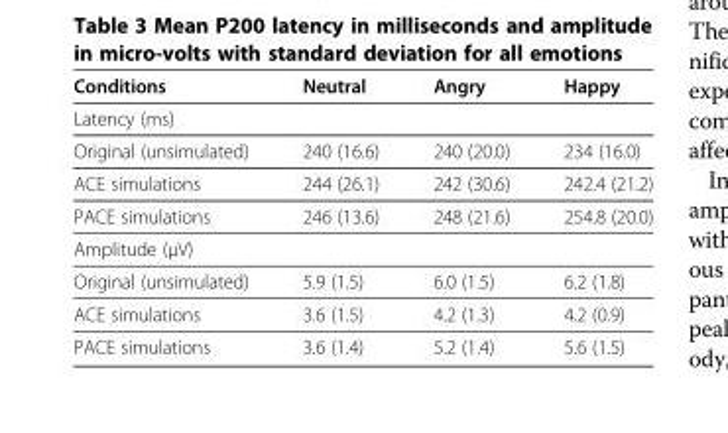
<table><thead><tr><td>Conditions</td><td>Neutral</td><td>Angry</td><td>Happy</td></tr></thead><tbody><tr><td colspan="4">Latency (ms)</td></tr><tr><td>Original (unsimulated)</td><td>240 (16.6)</td><td>240 (20.0)</td><td>234 (16.0)</td></tr><tr><td>ACE simulations</td><td>244 (26.1)</td><td>242 (30.6)</td><td>242.4 (21.2)</td></tr><tr><td>PACE simulations</td><td>246 (13.6)</td><td>248 (21.6)</td><td>254.8 (20.0)</td></tr><tr><td colspan="4">Amplitude (μV)</td></tr><tr><td>Original (unsimulated)</td><td>5.9 (1.5)</td><td>6.0 (1.5)</td><td>6.2 (1.8)</td></tr><tr><td>ACE simulations</td><td>3.6 (1.5)</td><td>4.2 (1.3)</td><td>4.2 (0.9)</td></tr><tr><td>PACE simulations</td><td>3.6 (1.4)</td><td>5.2 (1.4)</td><td>5.6 (1.5)</td></tr></tbody></table>